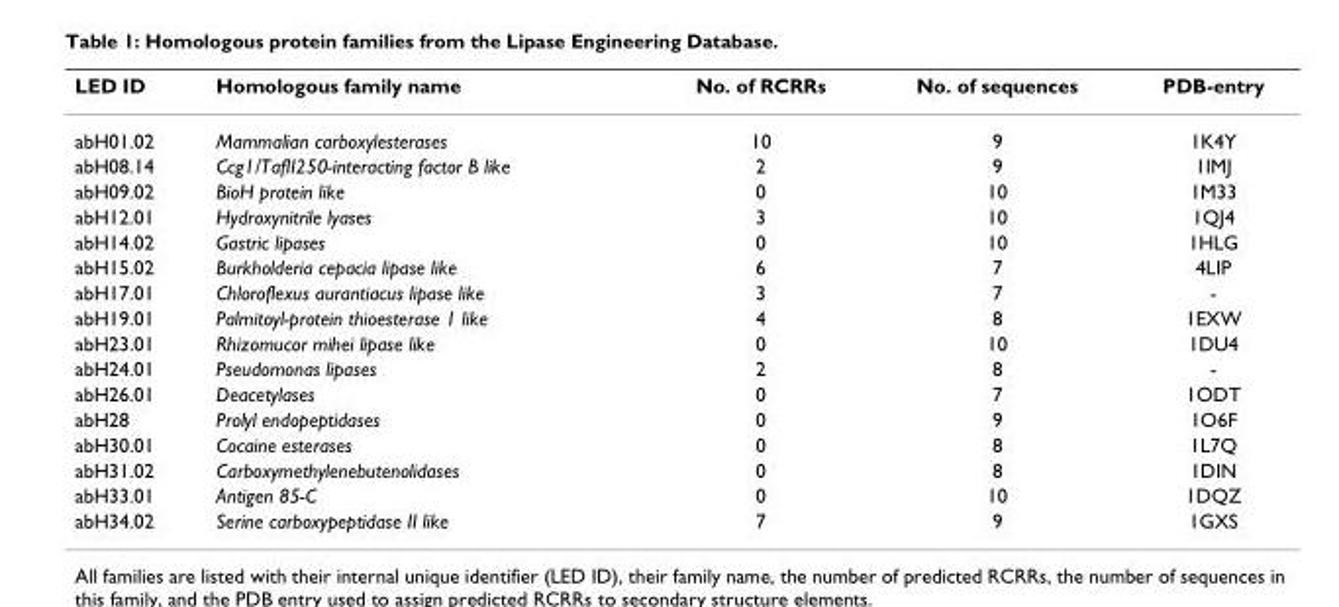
<table><thead><tr><td>LED ID</td><td>Homologous family name</td><td>No. of RCRRs</td><td>No. of sequences</td><td>PDB-entry</td></tr></thead><tbody><tr><td>abH01.02</td><td>Mammalian carboxylesterases</td><td>10</td><td>9</td><td>1K4Y</td></tr><tr><td>abH08.14</td><td>Ccg1/TafII250-interacting factor B like</td><td>2</td><td>9</td><td>1IMJ</td></tr><tr><td>abH09.02</td><td>BioH protein like</td><td>0</td><td>10</td><td>1M33</td></tr><tr><td>abH12.01</td><td>Hydroxynitrile lyases</td><td>3</td><td>10</td><td>1QJ4</td></tr><tr><td>abH14.02</td><td>Gastric lipases</td><td>0</td><td>10</td><td>1HLG</td></tr><tr><td>abH15.02</td><td>Burkholderia cepacia lipase like</td><td>6</td><td>7</td><td>4LIP</td></tr><tr><td>abH17.01</td><td>Chloroflexus aurantiacus lipase like</td><td>3</td><td>7</td><td>-</td></tr><tr><td>abH19.01</td><td>Palmitoyl-protein thioesterase 1 like</td><td>4</td><td>8</td><td>1EXW</td></tr><tr><td>abH23.01</td><td>Rhizomucor mihei lipase like</td><td>0</td><td>10</td><td>1DU4</td></tr><tr><td>abH24.01</td><td>Pseudomonas lipases</td><td>2</td><td>8</td><td>-</td></tr><tr><td>abH26.01</td><td>Deacetylases</td><td>0</td><td>7</td><td>1ODT</td></tr><tr><td>abH28</td><td>Prolyl endopeptidases</td><td>0</td><td>9</td><td>1O6F</td></tr><tr><td>abH30.01</td><td>Cocaine esterases</td><td>0</td><td>8</td><td>1L7Q</td></tr><tr><td>abH31.02</td><td>Carboxymethylenebutenolidases</td><td>0</td><td>8</td><td>1DIN</td></tr><tr><td>abH33.01</td><td>Antigen 85-C</td><td>0</td><td>10</td><td>1DQZ</td></tr><tr><td>abH34.02</td><td>Serine carboxypeptidase II like</td><td>7</td><td>9</td><td>1GXS</td></tr></tbody></table>